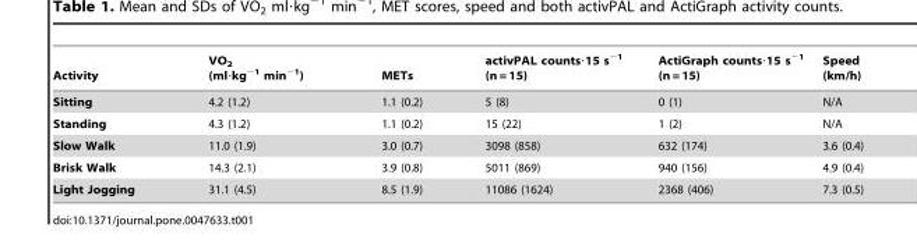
<table><thead><tr><td>Activity</td><td>VO<sub>2</sub> (ml·kg<sup>−1</sup> min<sup>−1</sup>)</td><td>METs</td><td>activPAL counts·15 s<sup>−1</sup> (n = 15)</td><td>ActiGraph counts·15 s<sup>−1</sup> (n = 15)</td><td>Speed (km/h)</td></tr></thead><tbody><tr><td>Sitting</td><td>4.2 (1.2)</td><td>1.1 (0.2)</td><td>5 (8)</td><td>0 (1)</td><td>N/A</td></tr><tr><td>Standing</td><td>4.3 (1.2)</td><td>1.1 (0.2)</td><td>15 (22)</td><td>1 (2)</td><td>N/A</td></tr><tr><td>Slow Walk</td><td>11.0 (1.9)</td><td>3.0 (0.7)</td><td>3098 (858)</td><td>632 (174)</td><td>3.6 (0.4)</td></tr><tr><td>Brisk Walk</td><td>14.3 (2.1)</td><td>3.9 (0.8)</td><td>5011 (869)</td><td>940 (156)</td><td>4.9 (0.4)</td></tr><tr><td>Light Jogging</td><td>31.1 (4.5)</td><td>8.5 (1.9)</td><td>11086 (1624)</td><td>2368 (406)</td><td>7.3 (0.5)</td></tr></tbody></table>